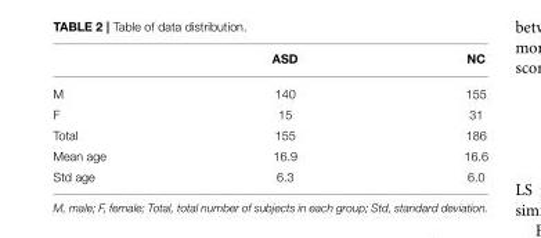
<table><thead><tr><td></td><td>ASD</td><td>NC</td></tr></thead><tbody><tr><td>M</td><td>140</td><td>155</td></tr><tr><td>F</td><td>15</td><td>31</td></tr><tr><td>Total</td><td>155</td><td>186</td></tr><tr><td>Mean age</td><td>16.9</td><td>16.6</td></tr><tr><td>Std age</td><td>6.3</td><td>6.0</td></tr></tbody></table>